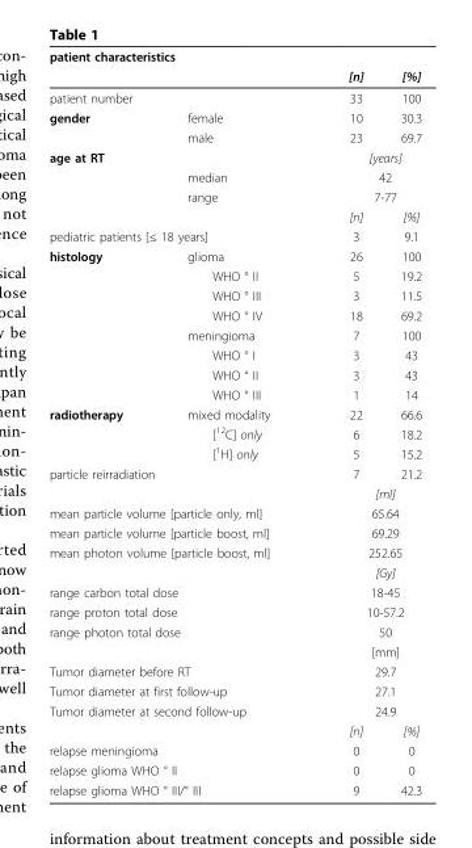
<table><thead><tr><td colspan="4">patient characteristics</td></tr><tr><td></td><td></td><td>[n]</td><td>[%]</td></tr></thead><tbody><tr><td colspan="2">patient number</td><td>33</td><td>100</td></tr><tr><td rowspan="2">gender</td><td>female</td><td>10</td><td>30.3</td></tr><tr><td>male</td><td>23</td><td>69.7</td></tr><tr><td rowspan="4">age at RT</td><td></td><td colspan="2">[years]</td></tr><tr><td>median</td><td colspan="2">42</td></tr><tr><td>range</td><td colspan="2">7-77</td></tr><tr><td></td><td>[n]</td><td>[%]</td></tr><tr><td colspan="2">pediatric patients [≤ 18 years]</td><td>3</td><td>9.1</td></tr><tr><td rowspan="8">histology</td><td>glioma</td><td>26</td><td>100</td></tr><tr><td>WHO ° II</td><td>5</td><td>19.2</td></tr><tr><td>WHO ° III</td><td>3</td><td>11.5</td></tr><tr><td>WHO ° IV</td><td>18</td><td>69.2</td></tr><tr><td>meningioma</td><td>7</td><td>100</td></tr><tr><td>WHO ° I</td><td>3</td><td>43</td></tr><tr><td>WHO ° II</td><td>3</td><td>43</td></tr><tr><td>WHO ° III</td><td>1</td><td>14</td></tr><tr><td rowspan="3">radiotherapy</td><td>mixed modality</td><td>22</td><td>66.6</td></tr><tr><td>[<sup>12</sup>C] only</td><td>6</td><td>18.2</td></tr><tr><td>[<sup>1</sup>H] only</td><td>5</td><td>15.2</td></tr><tr><td colspan="2">particle reirradiation</td><td>7</td><td>21.2</td></tr><tr><td></td><td></td><td colspan="2">[ml]</td></tr><tr><td colspan="2">mean particle volume [particle only, ml]</td><td colspan="2">65.64</td></tr><tr><td colspan="2">mean particle volume [particle boost, ml]</td><td colspan="2">69.29</td></tr><tr><td colspan="2">mean photon volume [particle boost, ml]</td><td colspan="2">252.65</td></tr><tr><td></td><td></td><td colspan="2">[Gy]</td></tr><tr><td colspan="2">range carbon total dose</td><td colspan="2">18-45</td></tr><tr><td colspan="2">range proton total dose</td><td colspan="2">10-57.2</td></tr><tr><td colspan="2">range photon total dose</td><td colspan="2">50</td></tr><tr><td></td><td></td><td colspan="2">[mm]</td></tr><tr><td colspan="2">Tumor diameter before RT</td><td colspan="2">29.7</td></tr><tr><td colspan="2">Tumor diameter at first follow-up</td><td colspan="2">27.1</td></tr><tr><td colspan="2">Tumor diameter at second follow-up</td><td colspan="2">24.9</td></tr><tr><td></td><td></td><td>[n]</td><td>[%]</td></tr><tr><td colspan="2">relapse meningioma</td><td>0</td><td>0</td></tr><tr><td colspan="2">relapse glioma WHO ° II</td><td>0</td><td>0</td></tr><tr><td colspan="2">relapse glioma WHO ° III/° III</td><td>9</td><td>42.3</td></tr></tbody></table>